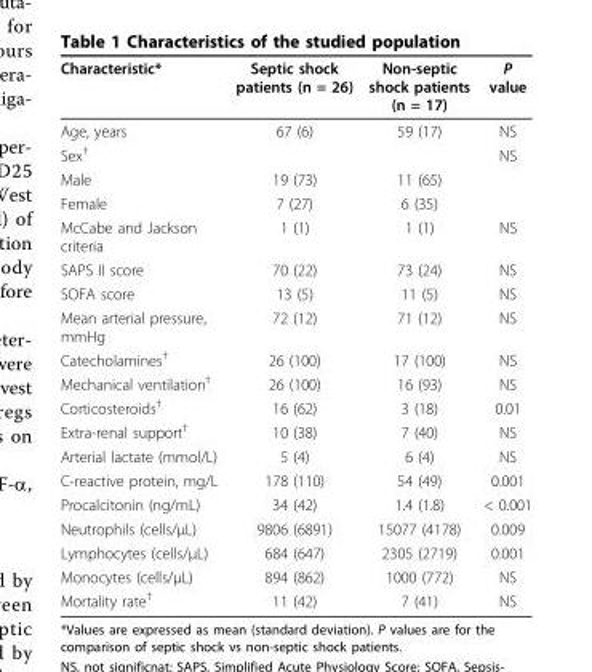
<table><thead><tr><td>Characteristic*</td><td>Septic shock patients (n = 26)</td><td>Non-septic shock patients (n = 17)</td><td>P value</td></tr></thead><tbody><tr><td>Age, years</td><td>67 (6)</td><td>59 (17)</td><td>NS</td></tr><tr><td>Sex<sup>†</sup></td><td></td><td></td><td>NS</td></tr><tr><td>Male</td><td>19 (73)</td><td>11 (65)</td><td></td></tr><tr><td>Female</td><td>7 (27)</td><td>6 (35)</td><td></td></tr><tr><td>McCabe and Jackson criteria</td><td>1 (1)</td><td>1 (1)</td><td>NS</td></tr><tr><td>SAPS II score</td><td>70 (22)</td><td>73 (24)</td><td>NS</td></tr><tr><td>SOFA score</td><td>13 (5)</td><td>11 (5)</td><td>NS</td></tr><tr><td>Mean arterial pressure, mmHg</td><td>72 (12)</td><td>71 (12)</td><td>NS</td></tr><tr><td>Catecholamines<sup>†</sup></td><td>26 (100)</td><td>17 (100)</td><td>NS</td></tr><tr><td>Mechanical ventilation<sup>†</sup></td><td>26 (100)</td><td>16 (93)</td><td>NS</td></tr><tr><td>Corticosteroids<sup>†</sup></td><td>16 (62)</td><td>3 (18)</td><td>0.01</td></tr><tr><td>Extra-renal support<sup>†</sup></td><td>10 (38)</td><td>7 (40)</td><td>NS</td></tr><tr><td>Arterial lactate (mmol/L)</td><td>5 (4)</td><td>6 (4)</td><td>NS</td></tr><tr><td>C-reactive protein, mg/L</td><td>178 (110)</td><td>54 (49)</td><td>0.001</td></tr><tr><td>Procalcitonin (ng/mL)</td><td>34 (42)</td><td>1.4 (1.8)</td><td>&lt; 0.001</td></tr><tr><td>Neutrophils (cells/μL)</td><td>9806 (6891)</td><td>15077 (4178)</td><td>0.009</td></tr><tr><td>Lymphocytes (cells/μL)</td><td>684 (647)</td><td>2305 (2719)</td><td>0.001</td></tr><tr><td>Monocytes (cells/μL)</td><td>894 (862)</td><td>1000 (772)</td><td>NS</td></tr><tr><td>Mortality rate<sup>†</sup></td><td>11 (42)</td><td>7 (41)</td><td>NS</td></tr></tbody></table>